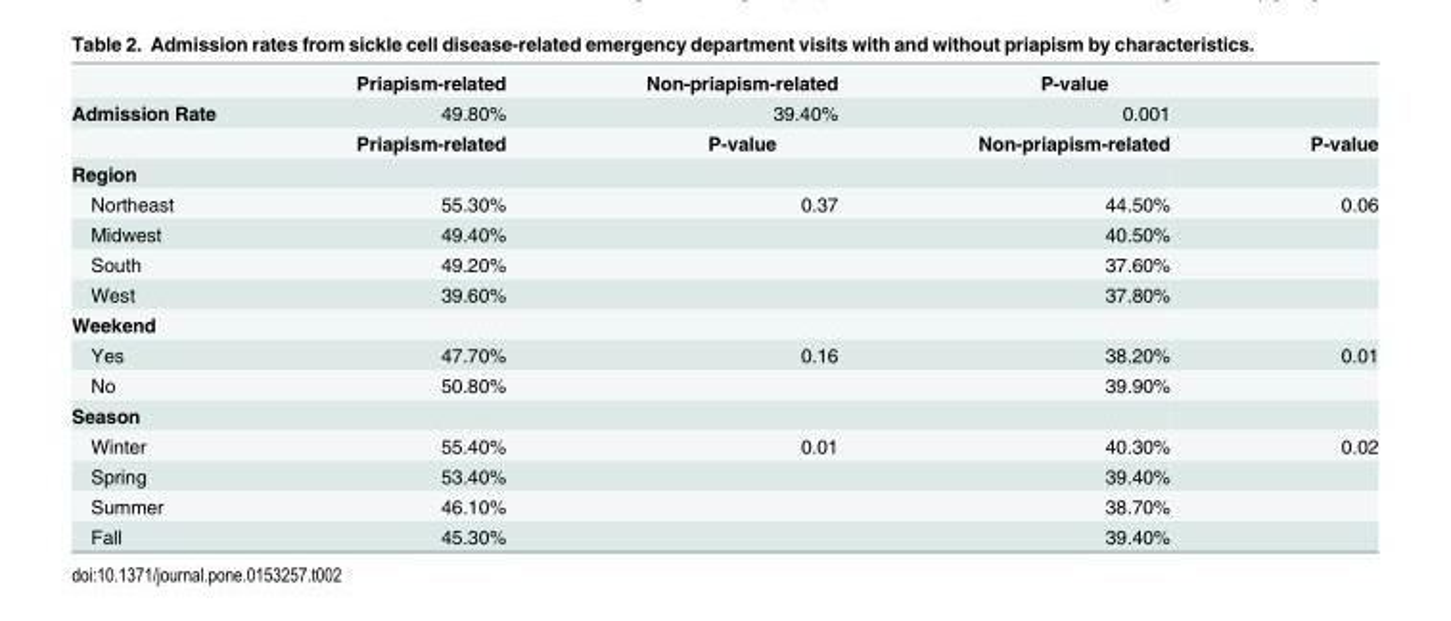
<table><thead><tr><td></td><td>Priapism-related</td><td>Non-priapism-related</td><td>P-value</td><td></td></tr></thead><tbody><tr><td rowspan="2">Admission Rate</td><td>49.80%</td><td>39.40%</td><td>0.001</td><td></td></tr><tr><td>Priapism-related</td><td>P-value</td><td>Non-priapism-related</td><td>P-value</td></tr><tr><td colspan="5">Region</td></tr><tr><td>Northeast</td><td>55.30%</td><td>0.37</td><td>44.50%</td><td>0.06</td></tr><tr><td>Midwest</td><td>49.40%</td><td></td><td>40.50%</td><td></td></tr><tr><td>South</td><td>49.20%</td><td></td><td>37.60%</td><td></td></tr><tr><td>West</td><td>39.60%</td><td></td><td>37.80%</td><td></td></tr><tr><td colspan="5">Weekend</td></tr><tr><td>Yes</td><td>47.70%</td><td>0.16</td><td>38.20%</td><td>0.01</td></tr><tr><td>No</td><td>50.80%</td><td></td><td>39.90%</td><td></td></tr><tr><td colspan="5">Season</td></tr><tr><td>Winter</td><td>55.40%</td><td>0.01</td><td>40.30%</td><td>0.02</td></tr><tr><td>Spring</td><td>53.40%</td><td></td><td>39.40%</td><td></td></tr><tr><td>Summer</td><td>46.10%</td><td></td><td>38.70%</td><td></td></tr><tr><td>Fall</td><td>45.30%</td><td></td><td>39.40%</td><td></td></tr></tbody></table>